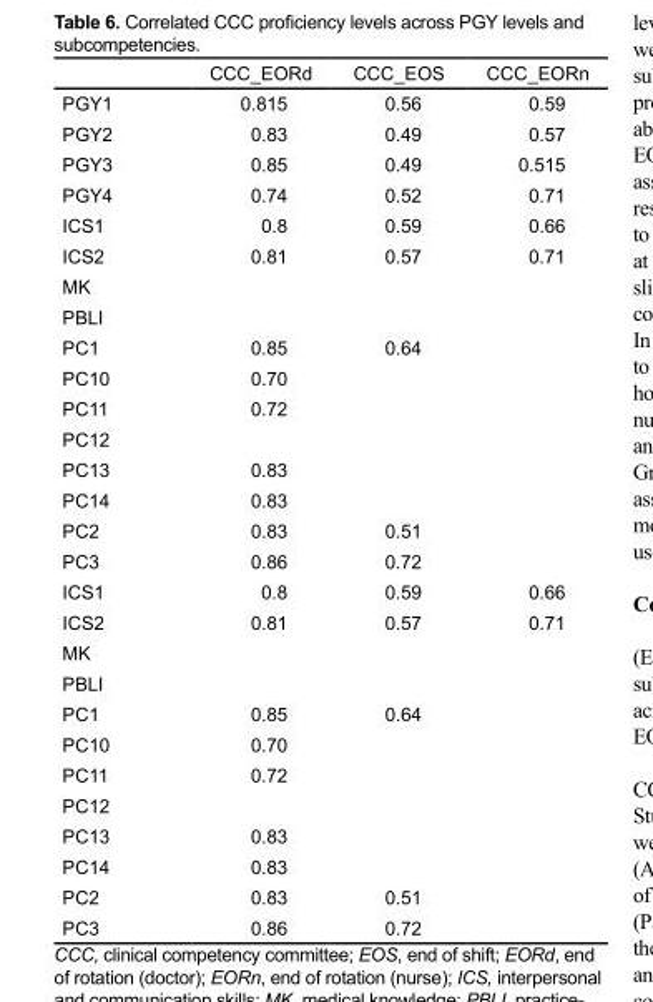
<table><thead><tr><td></td><td>CCC_EORd</td><td>CCC_EOS</td><td>CCC_EORn</td></tr></thead><tbody><tr><td>PGY1</td><td>0.815</td><td>0.56</td><td>0.59</td></tr><tr><td>PGY2</td><td>0.83</td><td>0.49</td><td>0.57</td></tr><tr><td>PGY3</td><td>0.85</td><td>0.49</td><td>0.515</td></tr><tr><td>PGY4</td><td>0.74</td><td>0.52</td><td>0.71</td></tr><tr><td>ICS1</td><td>0.8</td><td>0.59</td><td>0.66</td></tr><tr><td>ICS2</td><td>0.81</td><td>0.57</td><td>0.71</td></tr><tr><td colspan="4">MK</td></tr><tr><td colspan="4">PBLI</td></tr><tr><td>PC1</td><td>0.85</td><td>0.64</td><td></td></tr><tr><td>PC10</td><td>0.70</td><td></td><td></td></tr><tr><td>PC11</td><td>0.72</td><td></td><td></td></tr><tr><td colspan="4">PC12</td></tr><tr><td>PC13</td><td>0.83</td><td></td><td></td></tr><tr><td>PC14</td><td>0.83</td><td></td><td></td></tr><tr><td>PC2</td><td>0.83</td><td>0.51</td><td></td></tr><tr><td>PC3</td><td>0.86</td><td>0.72</td><td></td></tr><tr><td>ICS1</td><td>0.8</td><td>0.59</td><td>0.66</td></tr><tr><td>ICS2</td><td>0.81</td><td>0.57</td><td>0.71</td></tr><tr><td colspan="4">MK</td></tr><tr><td colspan="4">PBLI</td></tr><tr><td>PC1</td><td>0.85</td><td>0.64</td><td></td></tr><tr><td>PC10</td><td>0.70</td><td></td><td></td></tr><tr><td>PC11</td><td>0.72</td><td></td><td></td></tr><tr><td colspan="4">PC12</td></tr><tr><td>PC13</td><td>0.83</td><td></td><td></td></tr><tr><td>PC14</td><td>0.83</td><td></td><td></td></tr><tr><td>PC2</td><td>0.83</td><td>0.51</td><td></td></tr><tr><td>PC3</td><td>0.86</td><td>0.72</td><td></td></tr></tbody></table>